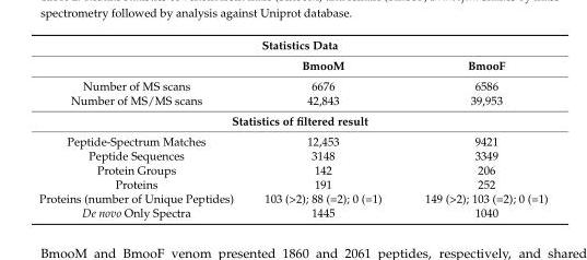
<table><tbody><tr><td colspan="3">Statistics Data</td></tr><tr><td></td><td>BmooM</td><td>BmooF</td></tr><tr><td>Number of MS scans</td><td>6676</td><td>6586</td></tr><tr><td>Number of MS/MS scans</td><td>42,843</td><td>39,953</td></tr><tr><td colspan="3">Statistics of filtered result</td></tr><tr><td>Peptide-Spectrum Matches</td><td>12,453</td><td>9421</td></tr><tr><td>Peptide Sequences</td><td>3148</td><td>3349</td></tr><tr><td>Protein Groups</td><td>142</td><td>206</td></tr><tr><td>Proteins</td><td>191</td><td>252</td></tr><tr><td>Proteins (number of Unique Peptides)</td><td>103 (&gt;2); 88 (=2); 0 (=1)</td><td>149 (&gt;2); 103 (=2); 0 (=1)</td></tr><tr><td>De novo Only Spectra</td><td>1445</td><td>1040</td></tr></tbody></table>